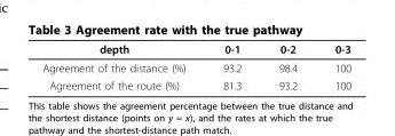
<table><thead><tr><td>depth</td><td>0-1</td><td>0-2</td><td>0-3</td></tr></thead><tbody><tr><td>Agreement of the distance (%)</td><td>93.2</td><td>98.4</td><td>100</td></tr><tr><td>Agreement of the route (%)</td><td>81.3</td><td>93.2</td><td>100</td></tr></tbody></table>